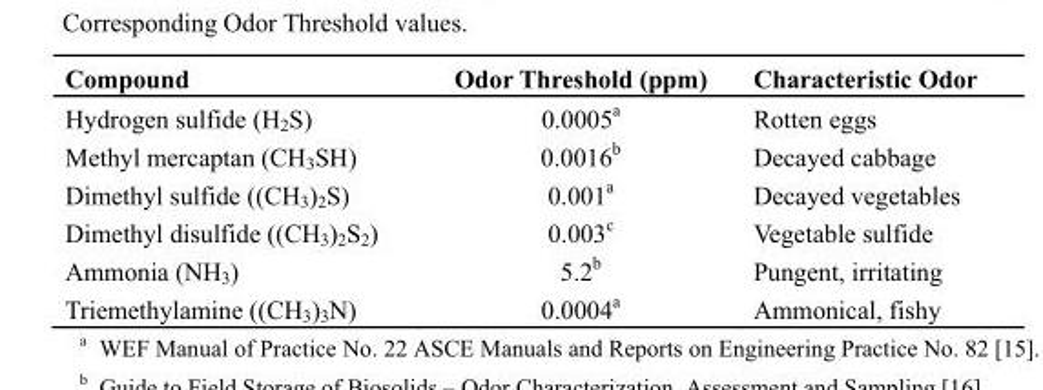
<table><thead><tr><td>Compound</td><td>Odor Threshold (ppm)</td><td>Characteristic Odor</td></tr></thead><tbody><tr><td>Hydrogen sulfide (H<sub>2</sub>S)</td><td>0.0005<sup>a</sup></td><td>Rotten eggs</td></tr><tr><td>Methyl mercaptan (CH<sub>3</sub>SH)</td><td>0.0016<sup>b</sup></td><td>Decayed cabbage</td></tr><tr><td>Dimethyl sulfide ((CH<sub>3</sub>)<sub>2</sub>S)</td><td>0.001<sup>a</sup></td><td>Decayed vegetables</td></tr><tr><td>Dimethyl disulfide ((CH<sub>3</sub>)<sub>2</sub>S<sub>2</sub>)</td><td>0.003<sup>c</sup></td><td>Vegetable sulfide</td></tr><tr><td>Ammonia (NH<sub>3</sub>)</td><td>5.2<sup>b</sup></td><td>Pungent, irritating</td></tr><tr><td>Triemethylamine ((CH<sub>3</sub>)<sub>3</sub>N)</td><td>0.0004<sup>a</sup></td><td>Ammonical, fishy</td></tr></tbody></table>